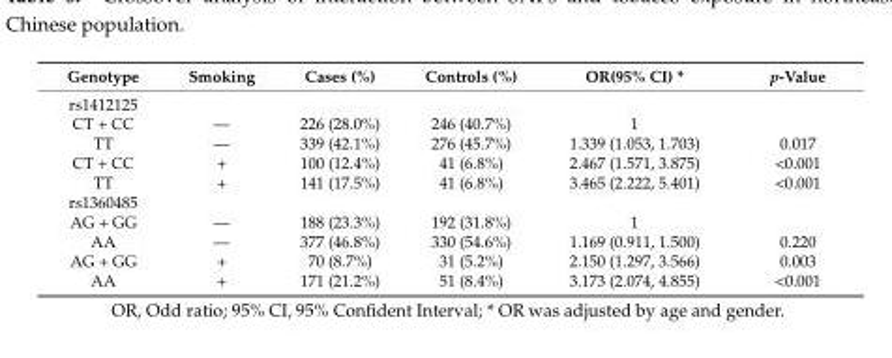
<table><thead><tr><td>Genotype</td><td>Smoking</td><td>Cases (%)</td><td>Controls (%)</td><td>OR(95% CI) *</td><td>p-Value</td></tr></thead><tbody><tr><td colspan="6">rs1412125</td></tr><tr><td>CT + CC</td><td>—</td><td>226 (28.0%)</td><td>246 (40.7%)</td><td>1</td><td></td></tr><tr><td>TT</td><td>—</td><td>339 (42.1%)</td><td>276 (45.7%)</td><td>1.339 (1.053, 1.703)</td><td>0.017</td></tr><tr><td>CT + CC</td><td>+</td><td>100 (12.4%)</td><td>41 (6.8%)</td><td>2.467 (1.571, 3.875)</td><td>&lt;0.001</td></tr><tr><td>TT</td><td>+</td><td>141 (17.5%)</td><td>41 (6.8%)</td><td>3.465 (2.222, 5.401)</td><td>&lt;0.001</td></tr><tr><td colspan="6">rs1360485</td></tr><tr><td>AG + GG</td><td>—</td><td>188 (23.3%)</td><td>192 (31.8%)</td><td>1</td><td></td></tr><tr><td>AA</td><td>—</td><td>377 (46.8%)</td><td>330 (54.6%)</td><td>1.169 (0.911, 1.500)</td><td>0.220</td></tr><tr><td>AG + GG</td><td>+</td><td>70 (8.7%)</td><td>31 (5.2%)</td><td>2.150 (1.297, 3.566)</td><td>0.003</td></tr><tr><td>AA</td><td>+</td><td>171 (21.2%)</td><td>51 (8.4%)</td><td>3.173 (2.074, 4.855)</td><td>&lt;0.001</td></tr></tbody></table>